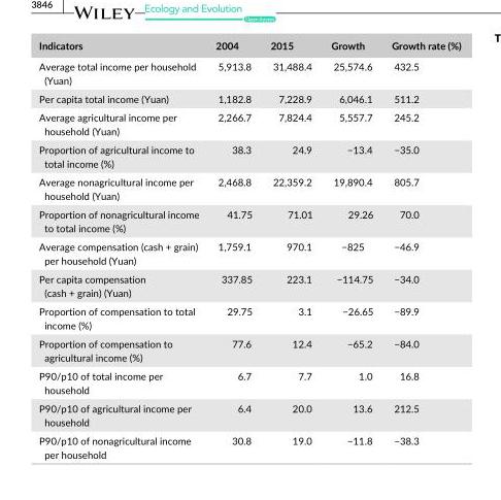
<table><thead><tr><td>Indicators</td><td>2004</td><td>2015</td><td>Growth</td><td>Growth rate (%)</td></tr></thead><tbody><tr><td>Average total income per household (Yuan)</td><td>5,913.8</td><td>31,488.4</td><td>25,574.6</td><td>432.5</td></tr><tr><td>Per capita total income (Yuan)</td><td>1,182.8</td><td>7,228.9</td><td>6,046.1</td><td>511.2</td></tr><tr><td>Average agricultural income per household (Yuan)</td><td>2,266.7</td><td>7,824.4</td><td>5,557.7</td><td>245.2</td></tr><tr><td>Proportion of agricultural income to total income (%)</td><td>38.3</td><td>24.9</td><td>−13.4</td><td>−35.0</td></tr><tr><td>Average nonagricultural income per household (Yuan)</td><td>2,468.8</td><td>22,359.2</td><td>19,890.4</td><td>805.7</td></tr><tr><td>Proportion of nonagricultural income to total income (%)</td><td>41.75</td><td>71.01</td><td>29.26</td><td>70.0</td></tr><tr><td>Average compensation (cash + grain) per household (Yuan)</td><td>1,759.1</td><td>970.1</td><td>−825</td><td>−46.9</td></tr><tr><td>Per capita compensation (cash + grain) (Yuan)</td><td>337.85</td><td>223.1</td><td>−114.75</td><td>−34.0</td></tr><tr><td>Proportion of compensation to total income (%)</td><td>29.75</td><td>3.1</td><td>−26.65</td><td>−89.9</td></tr><tr><td>Proportion of compensation to agricultural income (%)</td><td>77.6</td><td>12.4</td><td>−65.2</td><td>−84.0</td></tr><tr><td>P90/p10 of total income per household</td><td>6.7</td><td>7.7</td><td>1.0</td><td>16.8</td></tr><tr><td>P90/p10 of agricultural income per household</td><td>6.4</td><td>20.0</td><td>13.6</td><td>212.5</td></tr><tr><td>P90/p10 of nonagricultural income per household</td><td>30.8</td><td>19.0</td><td>−11.8</td><td>−38.3</td></tr></tbody></table>